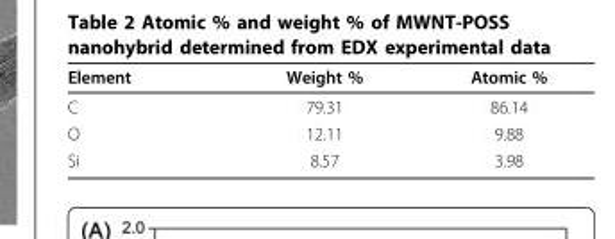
<table><thead><tr><td>Element</td><td>Weight %</td><td>Atomic %</td></tr></thead><tbody><tr><td>C</td><td>79.31</td><td>86.14</td></tr><tr><td>O</td><td>12.11</td><td>9.88</td></tr><tr><td>Si</td><td>8.57</td><td>3.98</td></tr></tbody></table>